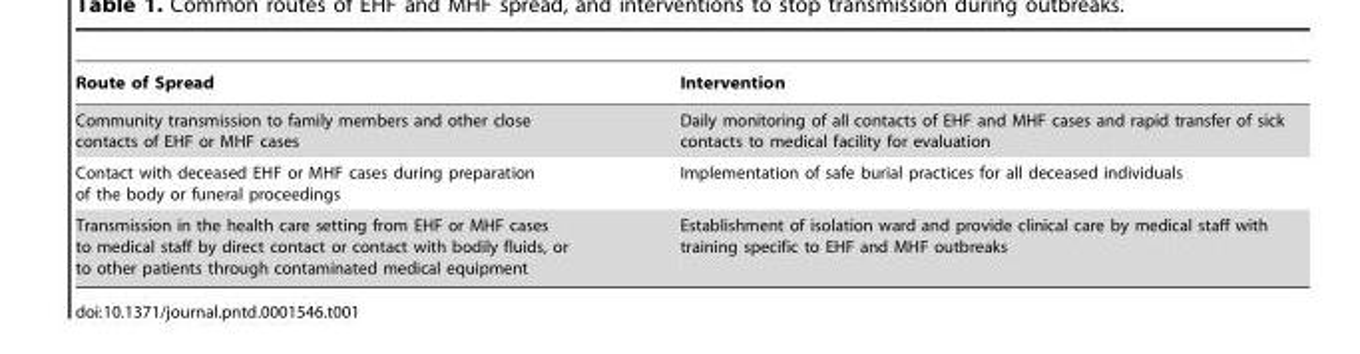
<table><thead><tr><td>Route of Spread</td><td>Intervention</td></tr></thead><tbody><tr><td>Community transmission to family members and other close contacts of EHF or MHF cases</td><td>Daily monitoring of all contacts of EHF and MHF cases and rapid transfer of sick contacts to medical facility for evaluation</td></tr><tr><td>Contact with deceased EHF or MHF cases during preparation of the body or funeral proceedings</td><td>Implementation of safe burial practices for all deceased individuals</td></tr><tr><td>Transmission in the health care setting from EHF or MHF cases to medical staff by direct contact or contact with bodily fluids, or to other patients through contaminated medical equipment</td><td>Establishment of isolation ward and provide clinical care by medical staff with training specific to EHF and MHF outbreaks</td></tr></tbody></table>